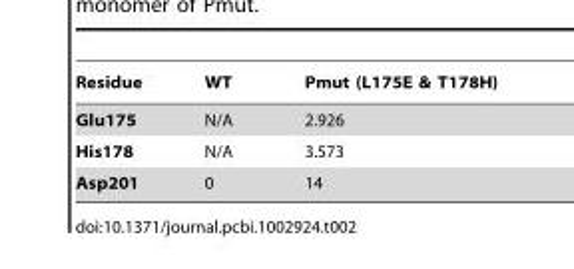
<table><thead><tr><td>Residue</td><td>WT</td><td>Pmut (L175E &amp; T178H)</td></tr></thead><tbody><tr><td>Glu175</td><td>N/A</td><td>2.926</td></tr><tr><td>His178</td><td>N/A</td><td>3.573</td></tr><tr><td>Asp201</td><td>0</td><td>14</td></tr></tbody></table>